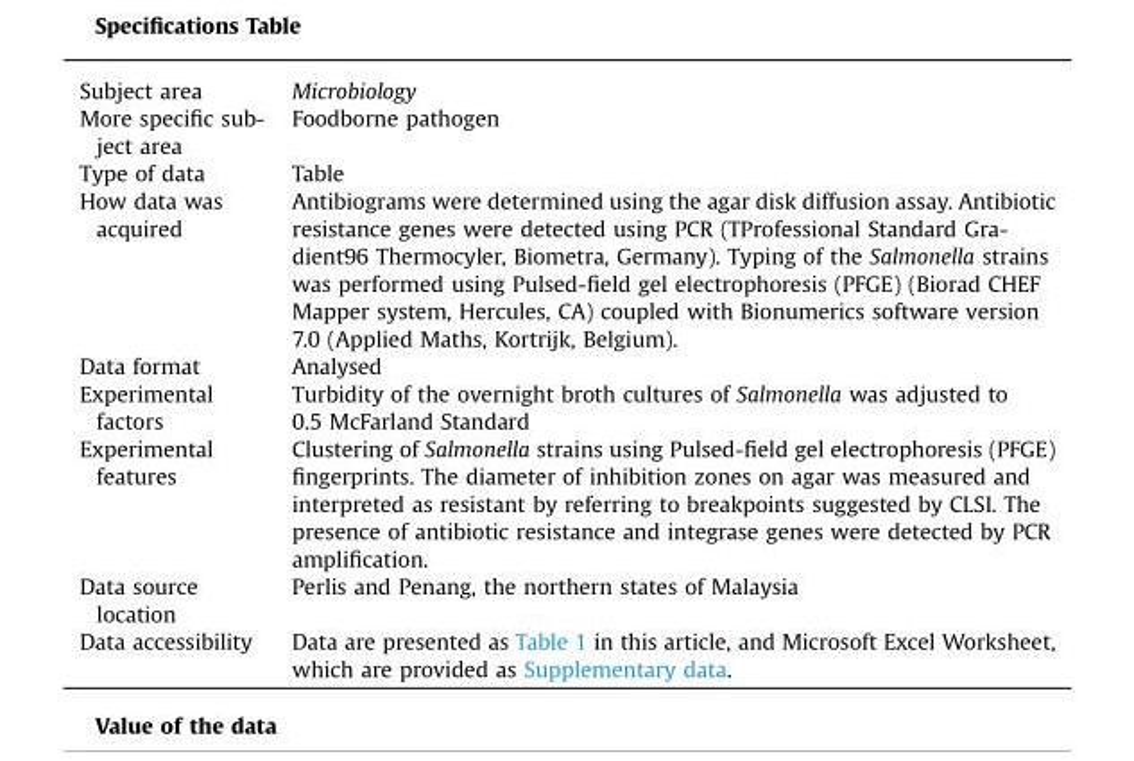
<table><tbody><tr><td>Subject area</td><td>Microbiology</td></tr><tr><td>More specific sub- ject area</td><td>Foodborne pathogen</td></tr><tr><td>Type of data</td><td>Table</td></tr><tr><td>How data was acquired</td><td>Antibiograms were determined using the agar disk diffusion assay. Antibiotic resistance genes were detected using PCR (TProfessional Standard Gra- dient96 Thermocyler, Biometra, Germany). Typing of the Salmonella strains was performed using Pulsed-field gel electrophoresis (PFGE) (Biorad CHEF Mapper system, Hercules, CA) coupled with Bionumerics software version 7.0 (Applied Maths, Kortrijk, Belgium).</td></tr><tr><td>Data format</td><td>Analysed</td></tr><tr><td>Experimental factors</td><td>Turbidity of the overnight broth cultures of Salmonella was adjusted to 0.5 McFarland Standard</td></tr><tr><td>Experimental features</td><td>Clustering of Salmonella strains using Pulsed-field gel electrophoresis (PFGE) fingerprints. The diameter of inhibition zones on agar was measured and interpreted as resistant by referring to breakpoints suggested by CLSI. The presence of antibiotic resistance and integrase genes were detected by PCR amplification.</td></tr><tr><td>Data source location</td><td>Perlis and Penang, the northern states of Malaysia</td></tr><tr><td>Data accessibility</td><td>Data are presented as Table 1 in this article, and Microsoft Excel Worksheet, which are provided as Supplementary data.</td></tr></tbody></table>